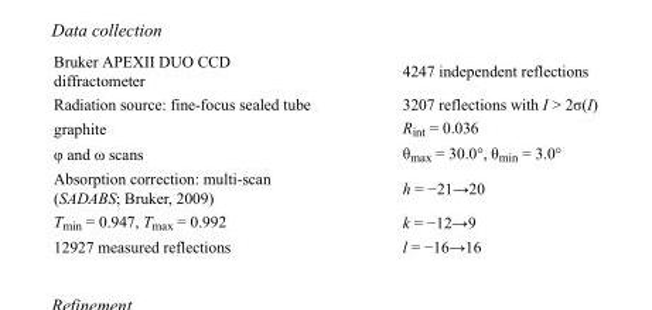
<table><tbody><tr><td>Bruker APEXII DUO CCD diffractometer</td><td>4247 independent reflections</td></tr><tr><td>Radiation source: fine-focus sealed tube</td><td>3207 reflections with I &gt; 2σ(I)</td></tr><tr><td>graphite</td><td>R<sub>int</sub> = 0.036</td></tr><tr><td>φ and ω scans</td><td>θ<sub>max</sub> = 30.0°, θ<sub>min</sub> = 3.0°</td></tr><tr><td>Absorption correction: multi-scan (SADABS; Bruker, 2009)</td><td>h = −21→20</td></tr><tr><td>T<sub>min</sub> = 0.947, T<sub>max</sub> = 0.992</td><td>k = −12→9</td></tr><tr><td>12927 measured reflections</td><td>l = −16→16</td></tr></tbody></table>